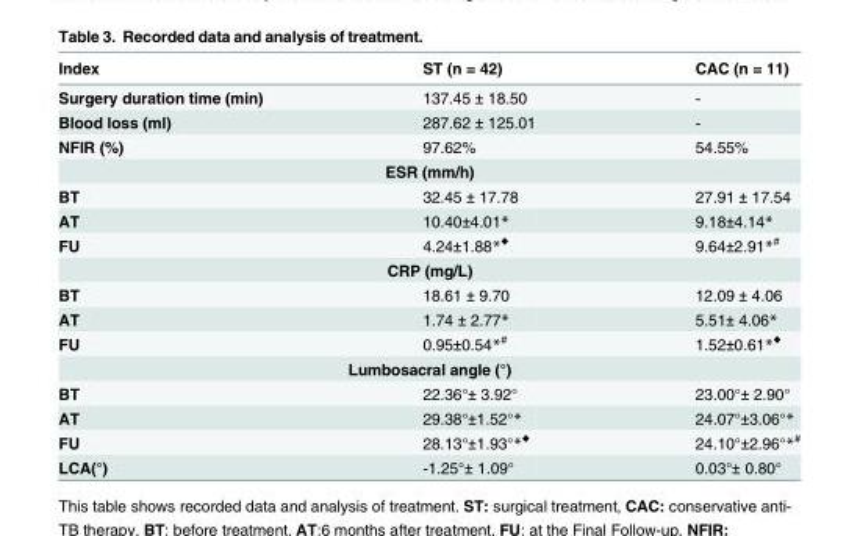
<table><thead><tr><td>Index</td><td>ST (n = 42)</td><td>CAC (n = 11)</td></tr></thead><tbody><tr><td>Surgery duration time (min)</td><td>137.45 ± 18.50</td><td>-</td></tr><tr><td>Blood loss (ml)</td><td>287.62 ± 125.01</td><td>-</td></tr><tr><td>NFIR (%)</td><td>97.62%</td><td>54.55%</td></tr><tr><td colspan="3">ESR (mm/h)</td></tr><tr><td>BT</td><td>32.45 ± 17.78</td><td>27.91 ± 17.54</td></tr><tr><td>AT</td><td>10.40±4.01*</td><td>9.18±4.14*</td></tr><tr><td>FU</td><td>4.24±1.88*<sup>♦</sup></td><td>9.64±2.91*<sup>#</sup></td></tr><tr><td colspan="3">CRP (mg/L)</td></tr><tr><td>BT</td><td>18.61 ± 9.70</td><td>12.09 ± 4.06</td></tr><tr><td>AT</td><td>1.74 ± 2.77*</td><td>5.51± 4.06*</td></tr><tr><td>FU</td><td>0.95±0.54*<sup>#</sup></td><td>1.52±0.61*<sup>♦</sup></td></tr><tr><td colspan="3">Lumbosacral angle (°)</td></tr><tr><td>BT</td><td>22.36°± 3.92°</td><td>23.00°± 2.90°</td></tr><tr><td>AT</td><td>29.38°±1.52°*</td><td>24.07°±3.06°*</td></tr><tr><td>FU</td><td>28.13°±1.93°*<sup>♦</sup></td><td>24.10°±2.96°*<sup>#</sup></td></tr><tr><td>LCA(°)</td><td>-1.25°± 1.09°</td><td>0.03°± 0.80°</td></tr></tbody></table>